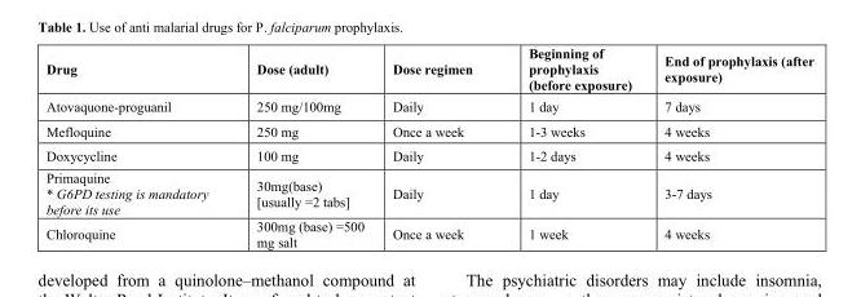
<table><thead><tr><td>Drug</td><td>Dose (adult)</td><td>Dose regimen</td><td>Beginning of prophylaxis (before exposure)</td><td>End of prophylaxis (after exposure)</td></tr></thead><tbody><tr><td>Atovaquone-proguanil</td><td>250 mg/100mg</td><td>Daily</td><td>1 day</td><td>7 days</td></tr><tr><td>Mefloquine</td><td>250 mg</td><td>Once a week</td><td>1-3 weeks</td><td>4 weeks</td></tr><tr><td>Doxycycline</td><td>100 mg</td><td>Daily</td><td>1-2 days</td><td>4 weeks</td></tr><tr><td>Primaquine * G6PD testing is mandatory before its use</td><td>30mg(base) [usually =2 tabs]</td><td>Daily</td><td>1 day</td><td>3-7 days</td></tr><tr><td>Chloroquine</td><td>300mg (base) =500 mg salt</td><td>Once a week</td><td>1 week</td><td>4 weeks</td></tr></tbody></table>